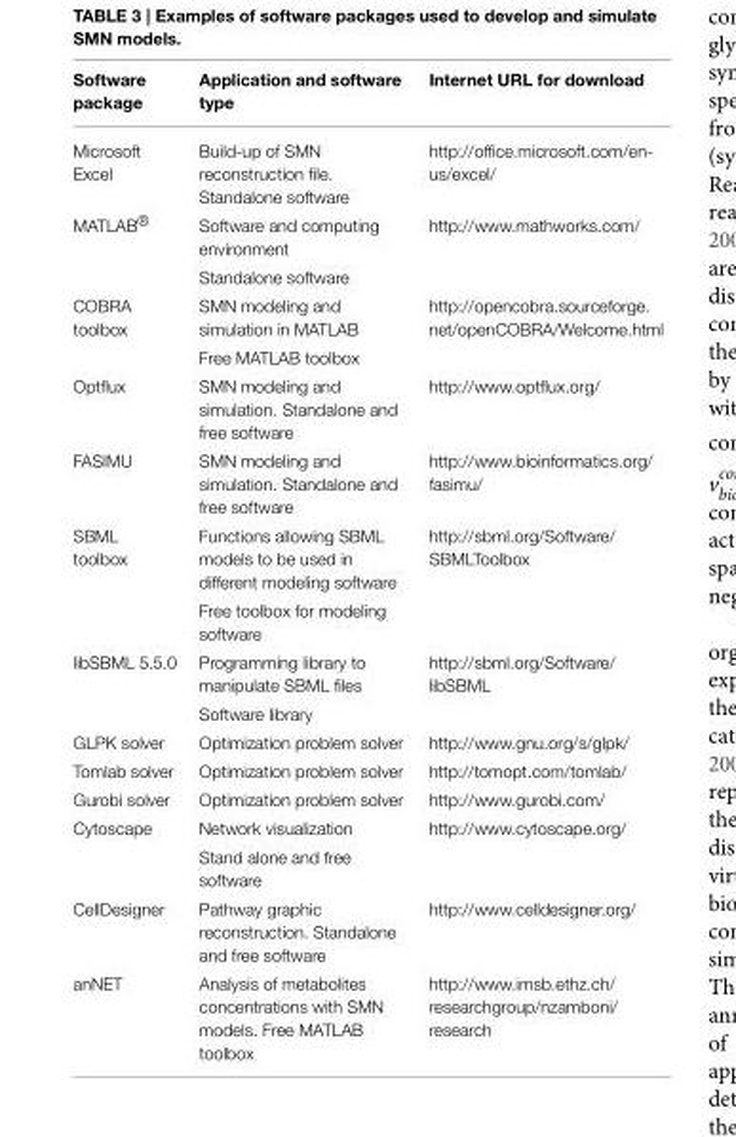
<table><thead><tr><td>Software package</td><td>Application and software type</td><td>Internet URL for download</td></tr></thead><tbody><tr><td>Microsoft Excel</td><td>Build-up of SMN reconstruction file. Standalone software</td><td>http://office.microsoft.com/en- us/excel/</td></tr><tr><td rowspan="2">MATLAB®</td><td>Software and computing environment</td><td>http://www.mathworks.com/</td></tr><tr><td>Standalone software</td><td></td></tr><tr><td rowspan="2">COBRA toolbox</td><td>SMN modeling and simulation in MATLAB</td><td>http://opencobra.sourceforge. net/openCOBRA/Welcome.html</td></tr><tr><td>Free MATLAB toolbox</td><td></td></tr><tr><td>Optflux</td><td>SMN modeling and simulation. Standalone and free software</td><td>http://www.optflux.org/</td></tr><tr><td>FASIMU</td><td>SMN modeling and simulation. Standalone and free software</td><td>http://www.bioinformatics.org/ fasimu/</td></tr><tr><td rowspan="2">SBML toolbox</td><td>Functions allowing SBML models to be used in different modeling software</td><td>http://sbml.org/Software/ SBMLToolbox</td></tr><tr><td>Free toolbox for modeling software</td><td></td></tr><tr><td rowspan="2">libSBML 5.5.0</td><td>Programming library to manipulate SBML files</td><td>http://sbml.org/Software/ libSBML</td></tr><tr><td>Software library</td><td></td></tr><tr><td>GLPK solver</td><td>Optimization problem solver</td><td>http://www.gnu.org/s/glpk/</td></tr><tr><td>Tomlab solver</td><td>Optimization problem solver</td><td>http://tomopt.com/tomlab/</td></tr><tr><td>Gurobi solver</td><td>Optimization problem solver</td><td>http://www.gurobi.com/</td></tr><tr><td rowspan="2">Cytoscape</td><td>Network visualization</td><td>http://www.cytoscape.org/</td></tr><tr><td>Stand alone and free software</td><td></td></tr><tr><td>CellDesigner</td><td>Pathway graphic reconstruction. Standalone and free software</td><td>http://www.celldesigner.org/</td></tr><tr><td>anNET</td><td>Analysis of metabolites concentrations with SMN models. Free MATLAB toolbox</td><td>http://www.imsb.ethz.ch/ researchgroup/nzamboni/ research</td></tr></tbody></table>